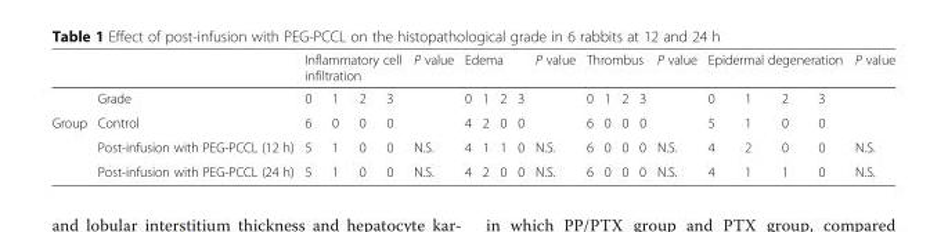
<table><thead><tr><td rowspan="2"></td><td rowspan="2">Grade</td><td colspan="4">Inflammatory cell infiltration</td><td rowspan="2">P value</td><td colspan="4">Edema</td><td rowspan="2">P value</td><td colspan="4">Thrombus</td><td rowspan="2">P value</td><td colspan="4">Epidermal degeneration</td><td rowspan="2">P value</td></tr><tr><td>0</td><td>1</td><td>2</td><td>3</td><td>0</td><td>1</td><td>2</td><td>3</td><td>0</td><td>1</td><td>2</td><td>3</td><td>0</td><td>1</td><td>2</td><td>3</td></tr></thead><tbody><tr><td rowspan="3">Group</td><td>Control</td><td>6</td><td>0</td><td>0</td><td>0</td><td></td><td>4</td><td>2</td><td>0</td><td>0</td><td></td><td>6</td><td>0</td><td>0</td><td>0</td><td></td><td>5</td><td>1</td><td>0</td><td>0</td><td></td></tr><tr><td>Post-infusion with PEG-PCCL (12 h)</td><td>5</td><td>1</td><td>0</td><td>0</td><td>N.S.</td><td>4</td><td>1</td><td>1</td><td>0</td><td>N.S.</td><td>6</td><td>0</td><td>0</td><td>0</td><td>N.S.</td><td>4</td><td>2</td><td>0</td><td>0</td><td>N.S.</td></tr><tr><td>Post-infusion with PEG-PCCL (24 h)</td><td>5</td><td>1</td><td>0</td><td>0</td><td>N.S.</td><td>4</td><td>2</td><td>0</td><td>0</td><td>N.S.</td><td>6</td><td>0</td><td>0</td><td>0</td><td>N.S.</td><td>4</td><td>1</td><td>1</td><td>0</td><td>N.S.</td></tr></tbody></table>